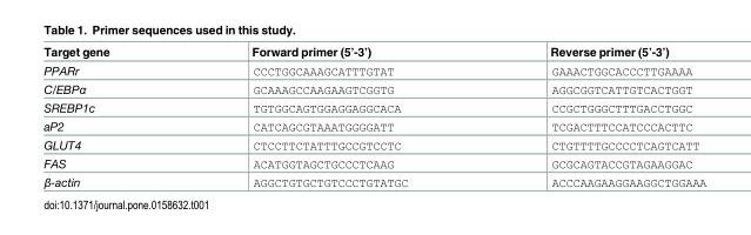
<table><thead><tr><td>Target gene</td><td>Forward primer (5’-3’)</td><td>Reverse primer (5’-3’)</td></tr></thead><tbody><tr><td>PPARr</td><td>CCCTGGCAAAGCATTTGTAT</td><td>GAAACTGGCACCCTTGAAAA</td></tr><tr><td>C/EBPα</td><td>GCAAAGCCAAGAAGTCGGTG</td><td>AGGCGGTCATTGTCACTGGT</td></tr><tr><td>SREBP1c</td><td>TGTGGCAGTGGAGGAGGCACA</td><td>CCGCTGGGCTTTGACCTGGC</td></tr><tr><td>aP2</td><td>CATCAGCGTAAATGGGGATT</td><td>TCGACTTTCCATCCCACTTC</td></tr><tr><td>GLUT4</td><td>CTCCTTCTATTTGCCGTCCTC</td><td>CTGTTTTGCCCCTCAGTCATT</td></tr><tr><td>FAS</td><td>ACATGGTAGCTGCCCTCAAG</td><td>GCGCAGTACCGTAGAAGGAC</td></tr><tr><td>β-actin</td><td>AGGCTGTGCTGTCCCTGTATGC</td><td>ACCCAAGAAGGAAGGCTGGAAA</td></tr></tbody></table>